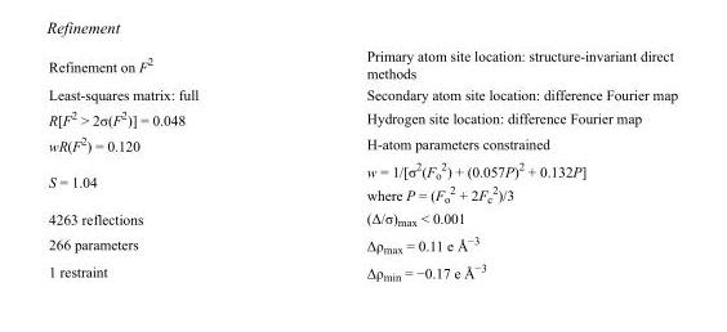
<table><tbody><tr><td>Refinement on F<sup>2</sup></td><td>Primary atom site location: structure-invariant direct methods</td></tr><tr><td>Least-squares matrix: full</td><td>Secondary atom site location: difference Fourier map</td></tr><tr><td>R[F<sup>2</sup> &gt; 2σ(F<sup>2</sup>)] = 0.048</td><td>Hydrogen site location: difference Fourier map</td></tr><tr><td>wR(F<sup>2</sup>) = 0.120</td><td>H-atom parameters constrained</td></tr><tr><td>S = 1.04</td><td>w = 1/[σ<sup>2</sup>(F<sub>o</sub> <sup>2</sup>) + (0.057P)<sup>2</sup> + 0.132P] where P = (F<sub>o</sub> <sup>2</sup> + 2F<sub>c</sub> <sup>2</sup>)/3</td></tr><tr><td>4263 reflections</td><td>(Δ/σ)<sub>max</sub> &lt; 0.001</td></tr><tr><td>266 parameters</td><td>Δρ<sub>max</sub> = 0.11 e Å<sup>−3</sup></td></tr><tr><td>1 restraint</td><td>Δρ<sub>min</sub> = −0.17 e Å<sup>−3</sup></td></tr></tbody></table>